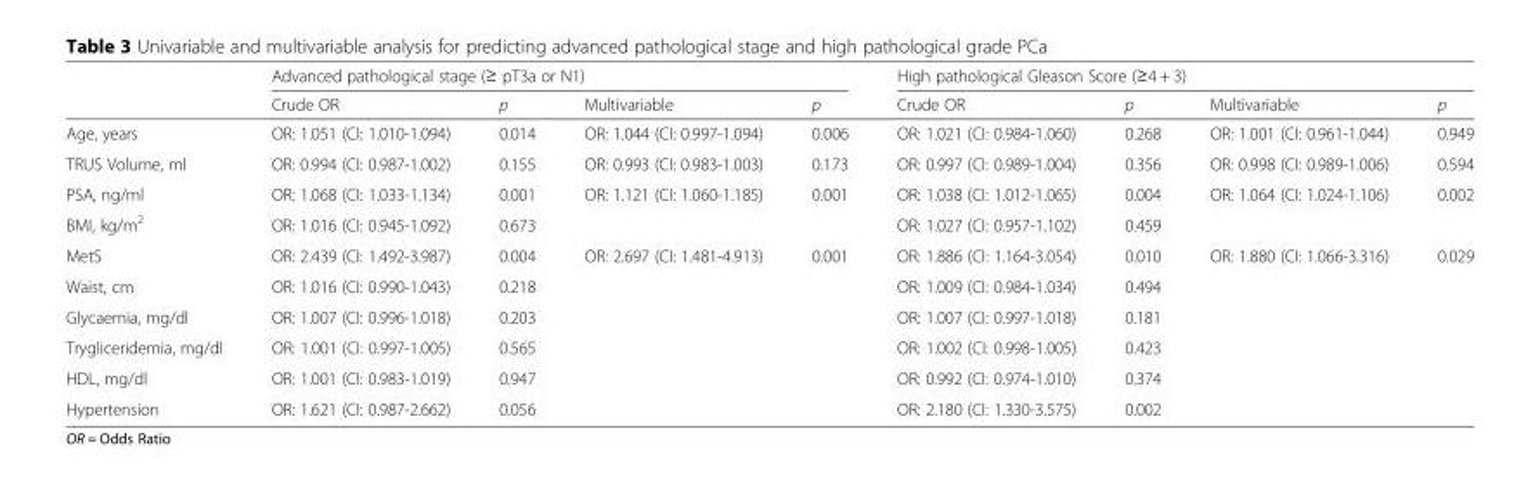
<table><thead><tr><td rowspan="2"></td><td colspan="4">Advanced pathological stage (≥ pT3a or N1)</td><td colspan="4">High pathological Gleason Score (≥4 + 3)</td></tr><tr><td>Crude OR</td><td>p</td><td>Multivariable</td><td>p</td><td>Crude OR</td><td>p</td><td>Multivariable</td><td>p</td></tr></thead><tbody><tr><td>Age, years</td><td>OR: 1.051 (CI: 1.010-1.094)</td><td>0.014</td><td>OR: 1.044 (CI: 0.997-1.094)</td><td>0.006</td><td>OR: 1.021 (CI: 0.984-1.060)</td><td>0.268</td><td>OR: 1.001 (CI: 0.961-1.044)</td><td>0.949</td></tr><tr><td>TRUS Volume, ml</td><td>OR: 0.994 (CI: 0.987-1.002)</td><td>0.155</td><td>OR: 0.993 (CI: 0.983-1.003)</td><td>0.173</td><td>OR: 0.997 (CI: 0.989-1.004)</td><td>0.356</td><td>OR: 0.998 (CI: 0.989-1.006)</td><td>0.594</td></tr><tr><td>PSA, ng/ml</td><td>OR: 1.068 (CI: 1.033-1.134)</td><td>0.001</td><td>OR: 1.121 (CI: 1.060-1.185)</td><td>0.001</td><td>OR: 1.038 (CI: 1.012-1.065)</td><td>0.004</td><td>OR: 1.064 (CI: 1.024-1.106)</td><td>0.002</td></tr><tr><td>BMI, kg/m<sup>2</sup></td><td>OR: 1.016 (CI: 0.945-1.092)</td><td>0.673</td><td></td><td></td><td>OR: 1.027 (CI: 0.957-1.102)</td><td>0.459</td><td></td><td></td></tr><tr><td>MetS</td><td>OR: 2.439 (CI: 1.492-3.987)</td><td>0.004</td><td>OR: 2.697 (CI: 1.481-4.913)</td><td>0.001</td><td>OR: 1.886 (CI: 1.164-3.054)</td><td>0.010</td><td>OR: 1.880 (CI: 1.066-3.316)</td><td>0.029</td></tr><tr><td>Waist, cm</td><td>OR: 1.016 (CI: 0.990-1.043)</td><td>0.218</td><td></td><td></td><td>OR: 1.009 (CI: 0.984-1.034)</td><td>0.494</td><td></td><td></td></tr><tr><td>Glycaemia, mg/dl</td><td>OR: 1.007 (CI: 0.996-1.018)</td><td>0.203</td><td></td><td></td><td>OR: 1.007 (CI: 0.997-1.018)</td><td>0.181</td><td></td><td></td></tr><tr><td>Trygliceridemia, mg/dl</td><td>OR: 1.001 (CI: 0.997-1.005)</td><td>0.565</td><td></td><td></td><td>OR: 1.002 (CI: 0.998-1.005)</td><td>0.423</td><td></td><td></td></tr><tr><td>HDL, mg/dl</td><td>OR: 1.001 (CI: 0.983-1.019)</td><td>0.947</td><td></td><td></td><td>OR: 0.992 (CI: 0.974-1.010)</td><td>0.374</td><td></td><td></td></tr><tr><td>Hypertension</td><td>OR: 1.621 (CI: 0.987-2.662)</td><td>0.056</td><td></td><td></td><td>OR: 2.180 (CI: 1.330-3.575)</td><td>0.002</td><td></td><td></td></tr></tbody></table>